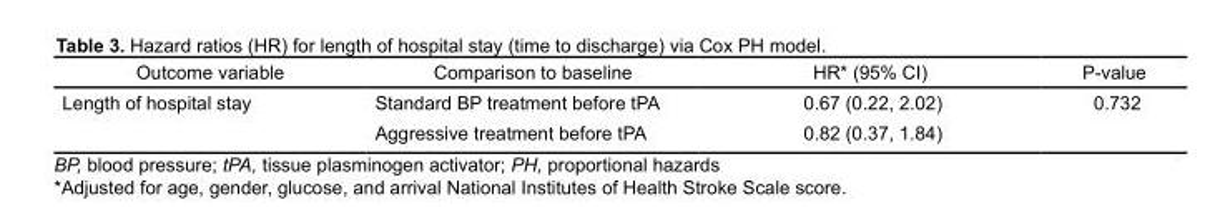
<table><thead><tr><td>Outcome variable</td><td>Comparison to baseline</td><td>HR* (95% CI)</td><td>P-value</td></tr></thead><tbody><tr><td rowspan="2">Length of hospital stay</td><td>Standard BP treatment before tPA</td><td>0.67 (0.22, 2.02)</td><td>0.732</td></tr><tr><td>Aggressive treatment before tPA</td><td>0.82 (0.37, 1.84)</td><td></td></tr></tbody></table>